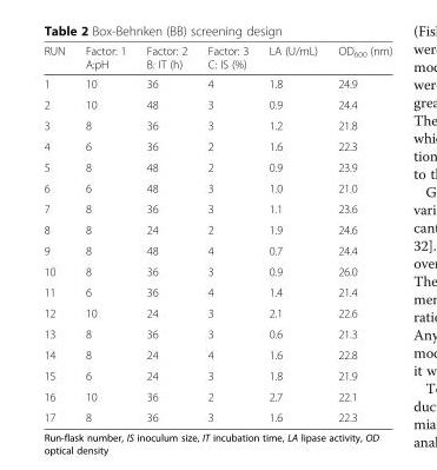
<table><thead><tr><td>RUN</td><td>Factor: 1 A:pH</td><td>Factor: 2 B: IT (h)</td><td>Factor: 3 C: IS (%)</td><td>LA (U/mL)</td><td>OD<sub>600</sub> (nm)</td></tr></thead><tbody><tr><td>1</td><td>10</td><td>36</td><td>4</td><td>1.8</td><td>24.9</td></tr><tr><td>2</td><td>10</td><td>48</td><td>3</td><td>0.9</td><td>24.4</td></tr><tr><td>3</td><td>8</td><td>36</td><td>3</td><td>1.2</td><td>21.8</td></tr><tr><td>4</td><td>6</td><td>36</td><td>2</td><td>1.6</td><td>22.3</td></tr><tr><td>5</td><td>8</td><td>48</td><td>2</td><td>0.9</td><td>23.9</td></tr><tr><td>6</td><td>6</td><td>48</td><td>3</td><td>1.0</td><td>21.0</td></tr><tr><td>7</td><td>8</td><td>36</td><td>3</td><td>1.1</td><td>23.6</td></tr><tr><td>8</td><td>8</td><td>24</td><td>2</td><td>1.9</td><td>24.6</td></tr><tr><td>9</td><td>8</td><td>48</td><td>4</td><td>0.7</td><td>24.4</td></tr><tr><td>10</td><td>8</td><td>36</td><td>3</td><td>0.9</td><td>26.0</td></tr><tr><td>11</td><td>6</td><td>36</td><td>4</td><td>1.4</td><td>21.4</td></tr><tr><td>12</td><td>10</td><td>24</td><td>3</td><td>2.1</td><td>22.6</td></tr><tr><td>13</td><td>8</td><td>36</td><td>3</td><td>0.6</td><td>21.3</td></tr><tr><td>14</td><td>8</td><td>24</td><td>4</td><td>1.6</td><td>22.8</td></tr><tr><td>15</td><td>6</td><td>24</td><td>3</td><td>1.8</td><td>21.9</td></tr><tr><td>16</td><td>10</td><td>36</td><td>2</td><td>2.7</td><td>22.1</td></tr><tr><td>17</td><td>8</td><td>36</td><td>3</td><td>1.6</td><td>22.3</td></tr></tbody></table>